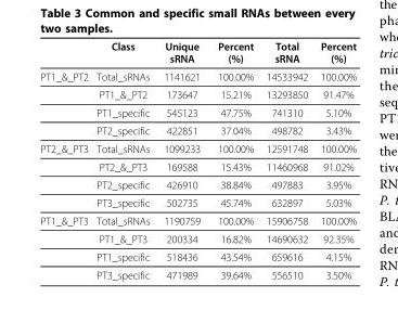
<table><thead><tr><td></td><td>Class</td><td>Unique sRNA</td><td>Percent (%)</td><td>Total sRNA</td><td>Percent (%)</td></tr></thead><tbody><tr><td rowspan="4">PT1_&amp;_PT2</td><td>Total_sRNAs</td><td>1141621</td><td>100.00%</td><td>14533942</td><td>100.00%</td></tr><tr><td>PT1_&amp;_PT2</td><td>173647</td><td>15.21%</td><td>13293850</td><td>91.47%</td></tr><tr><td>PT1_specific</td><td>545123</td><td>47.75%</td><td>741310</td><td>5.10%</td></tr><tr><td>PT2_specific</td><td>422851</td><td>37.04%</td><td>498782</td><td>3.43%</td></tr><tr><td rowspan="4">PT2_&amp;_PT3</td><td>Total_sRNAs</td><td>1099233</td><td>100.00%</td><td>12591748</td><td>100.00%</td></tr><tr><td>PT2_&amp;_PT3</td><td>169588</td><td>15.43%</td><td>11460968</td><td>91.02%</td></tr><tr><td>PT2_specific</td><td>426910</td><td>38.84%</td><td>497883</td><td>3.95%</td></tr><tr><td>PT3_specific</td><td>502735</td><td>45.74%</td><td>632897</td><td>5.03%</td></tr><tr><td rowspan="4">PT1_&amp;_PT3</td><td>Total_sRNAs</td><td>1190759</td><td>100.00%</td><td>15906758</td><td>100.00%</td></tr><tr><td>PT1_&amp;_PT3</td><td>200334</td><td>16.82%</td><td>14690632</td><td>92.35%</td></tr><tr><td>PT1_specific</td><td>518436</td><td>43.54%</td><td>659616</td><td>4.15%</td></tr><tr><td>PT3_specific</td><td>471989</td><td>39.64%</td><td>556510</td><td>3.50%</td></tr></tbody></table>